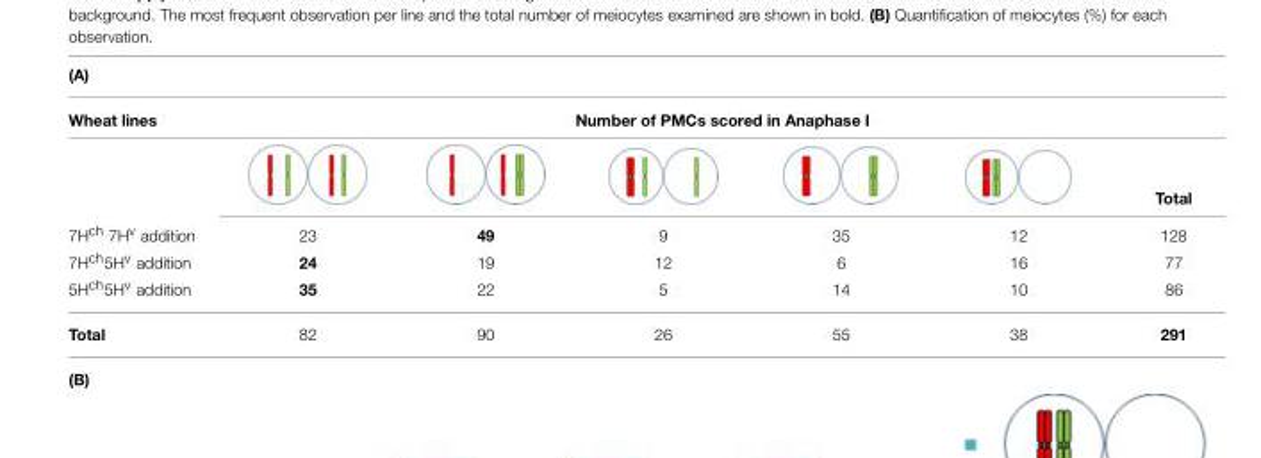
<table><thead><tr><td colspan="7">(A)</td></tr><tr><td rowspan="2">Wheat lines</td><td colspan="6">Number of PMCs scored in Anaphase I</td></tr><tr><td></td><td></td><td></td><td></td><td></td><td>Total</td></tr></thead><tbody><tr><td>7H<sup>ch</sup> 7H<sup>v</sup> addition</td><td>23</td><td>49</td><td>9</td><td>35</td><td>12</td><td>128</td></tr><tr><td>7H<sup>ch</sup>5H<sup>v</sup> addition</td><td>24</td><td>19</td><td>12</td><td>6</td><td>16</td><td>77</td></tr><tr><td>5H<sup>ch</sup>5H<sup>v</sup> addition</td><td>35</td><td>22</td><td>5</td><td>14</td><td>10</td><td>86</td></tr><tr><td>Total</td><td>82</td><td>90</td><td>26</td><td>55</td><td>38</td><td>291</td></tr><tr><td colspan="7">(B)</td></tr></tbody></table>